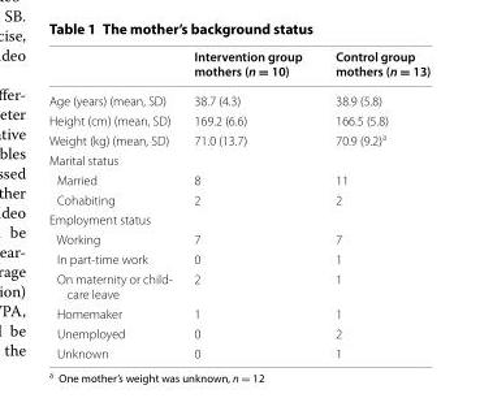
<table><thead><tr><td></td><td>Intervention group mothers (n = 10)</td><td>Control group mothers (n = 13)</td></tr></thead><tbody><tr><td>Age (years) (mean, SD)</td><td>38.7 (4.3)</td><td>38.9 (5.8)</td></tr><tr><td>Height (cm) (mean, SD)</td><td>169.2 (6.6)</td><td>166.5 (5.8)</td></tr><tr><td>Weight (kg) (mean, SD)</td><td>71.0 (13.7)</td><td>70.9 (9.2)<sup>a</sup></td></tr><tr><td colspan="3">Marital status</td></tr><tr><td>Married</td><td>8</td><td>11</td></tr><tr><td>Cohabiting</td><td>2</td><td>2</td></tr><tr><td colspan="3">Employment status</td></tr><tr><td>Working</td><td>7</td><td>7</td></tr><tr><td>In part-time work</td><td>0</td><td>1</td></tr><tr><td>On maternity or child- care leave</td><td>2</td><td>1</td></tr><tr><td>Homemaker</td><td>1</td><td>1</td></tr><tr><td>Unemployed</td><td>0</td><td>2</td></tr><tr><td>Unknown</td><td>0</td><td>1</td></tr></tbody></table>